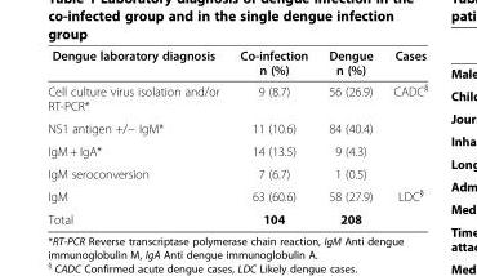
<table><thead><tr><td>Dengue laboratory diagnosis</td><td>Co-infection n (%)</td><td>Dengue n (%)</td><td>Cases</td></tr></thead><tbody><tr><td>Cell culture virus isolation and/or RT-PCR*</td><td>9 (8.7)</td><td>56 (26.9)</td><td rowspan="4">CADC<sup>§</sup></td></tr><tr><td>NS1 antigen +/− IgM*</td><td>11 (10.6)</td><td>84 (40.4)</td></tr><tr><td>IgM + IgA*</td><td>14 (13.5)</td><td>9 (4.3)</td></tr><tr><td>IgM seroconversion</td><td>7 (6.7)</td><td>1 (0.5)</td></tr><tr><td>IgM</td><td>63 (60.6)</td><td>58 (27.9)</td><td>LDC<sup>§</sup></td></tr><tr><td>Total</td><td>104</td><td>208</td><td></td></tr></tbody></table>